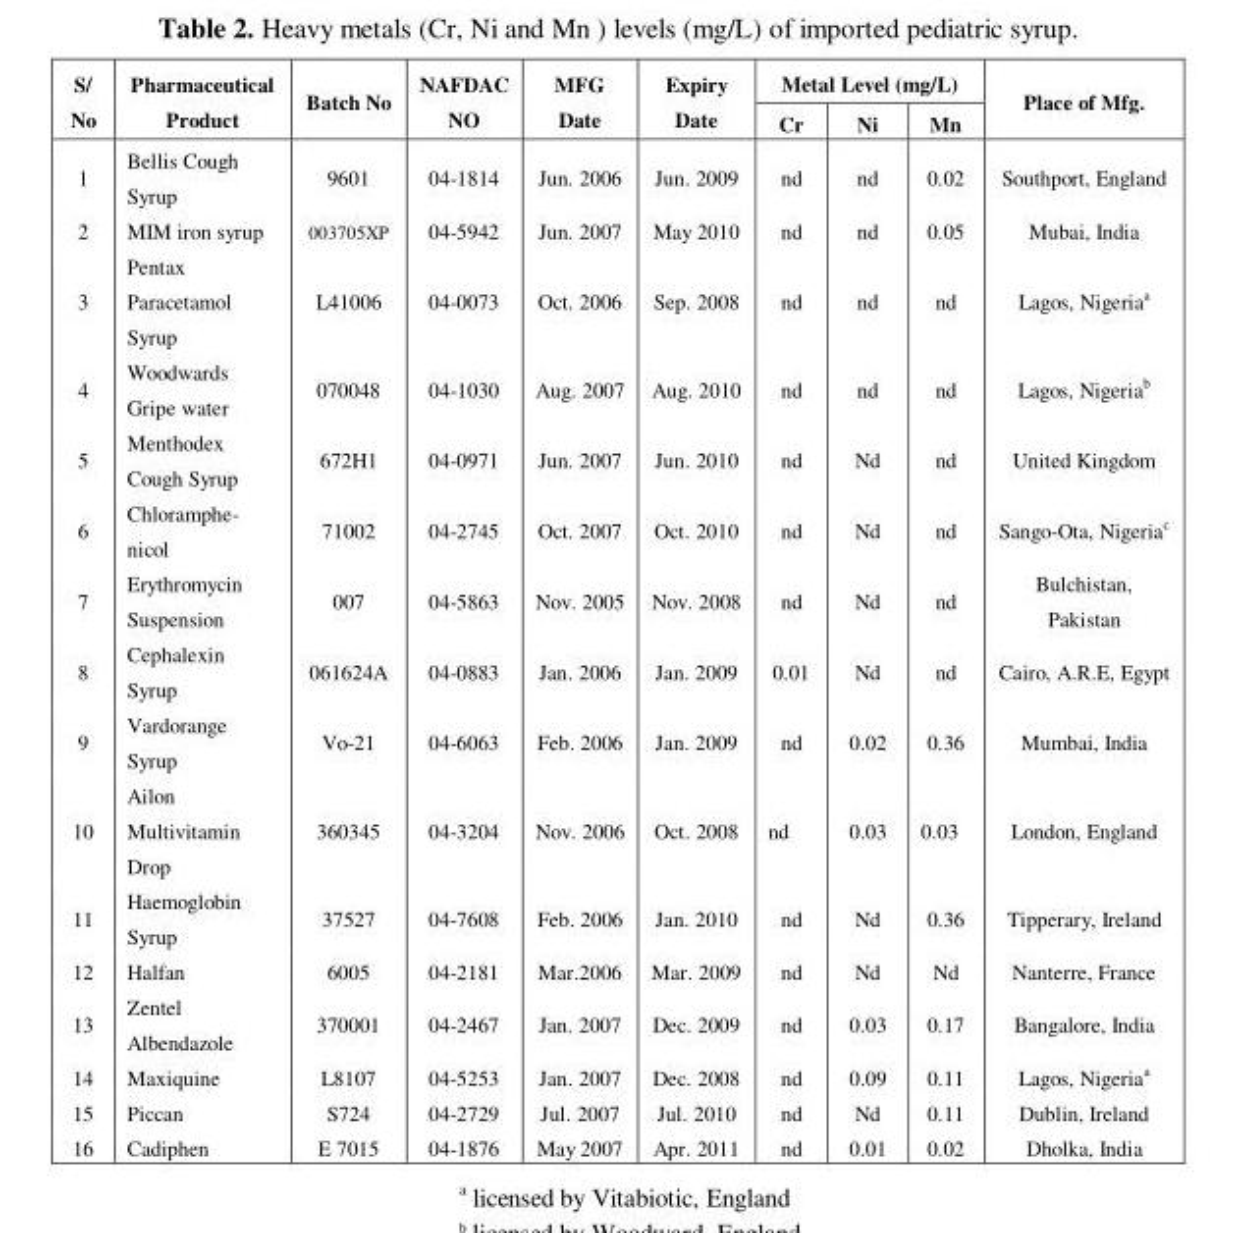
<table><thead><tr><td rowspan="2">S/ No</td><td rowspan="2">Pharmaceutical Product</td><td rowspan="2">Batch No</td><td rowspan="2">NAFDAC NO</td><td rowspan="2">MFG Date</td><td rowspan="2">Expiry Date</td><td colspan="3">Metal Level (mg/L)</td><td rowspan="2">Place of Mfg.</td></tr><tr><td>Cr</td><td>Ni</td><td>Mn</td></tr></thead><tbody><tr><td>1</td><td>Bellis Cough Syrup</td><td>9601</td><td>04-1814</td><td>Jun. 2006</td><td>Jun. 2009</td><td>nd</td><td>nd</td><td>0.02</td><td>Southport, England</td></tr><tr><td>2</td><td>MIM iron syrup</td><td>003705XP</td><td>04-5942</td><td>Jun. 2007</td><td>May 2010</td><td>nd</td><td>nd</td><td>0.05</td><td>Mubai, India</td></tr><tr><td>3</td><td>Pentax Paracetamol Syrup</td><td>L41006</td><td>04-0073</td><td>Oct. 2006</td><td>Sep. 2008</td><td>nd</td><td>nd</td><td>nd</td><td>Lagos, Nigeria<sup>a</sup></td></tr><tr><td>4</td><td>Woodwards Gripe water</td><td>070048</td><td>04-1030</td><td>Aug. 2007</td><td>Aug. 2010</td><td>nd</td><td>nd</td><td>nd</td><td>Lagos, Nigeria<sup>b</sup></td></tr><tr><td>5</td><td>Menthodex Cough Syrup</td><td>672H1</td><td>04-0971</td><td>Jun. 2007</td><td>Jun. 2010</td><td>nd</td><td>Nd</td><td>nd</td><td>United Kingdom</td></tr><tr><td>6</td><td>Chloramphe- nicol</td><td>71002</td><td>04-2745</td><td>Oct. 2007</td><td>Oct. 2010</td><td>nd</td><td>Nd</td><td>nd</td><td>Sango-Ota, Nigeria<sup>c</sup></td></tr><tr><td>7</td><td>Erythromycin Suspension</td><td>007</td><td>04-5863</td><td>Nov. 2005</td><td>Nov. 2008</td><td>nd</td><td>Nd</td><td>nd</td><td>Bulchistan, Pakistan</td></tr><tr><td>8</td><td>Cephalexin Syrup</td><td>061624A</td><td>04-0883</td><td>Jan. 2006</td><td>Jan. 2009</td><td>0.01</td><td>Nd</td><td>nd</td><td>Cairo, A.R.E, Egypt</td></tr><tr><td>9</td><td>Vardorange Syrup</td><td>Vo-21</td><td>04-6063</td><td>Feb. 2006</td><td>Jan. 2009</td><td>nd</td><td>0.02</td><td>0.36</td><td>Mumbai, India</td></tr><tr><td>10</td><td>Ailon Multivitamin Drop</td><td>360345</td><td>04-3204</td><td>Nov. 2006</td><td>Oct. 2008</td><td>nd</td><td>0.03</td><td>0.03</td><td>London, England</td></tr><tr><td>11</td><td>Haemoglobin Syrup</td><td>37527</td><td>04-7608</td><td>Feb. 2006</td><td>Jan. 2010</td><td>nd</td><td>Nd</td><td>0.36</td><td>Tipperary, Ireland</td></tr><tr><td>12</td><td>Halfan</td><td>6005</td><td>04-2181</td><td>Mar.2006</td><td>Mar. 2009</td><td>nd</td><td>Nd</td><td>Nd</td><td>Nanterre, France</td></tr><tr><td>13</td><td>Zentel Albendazole</td><td>370001</td><td>04-2467</td><td>Jan. 2007</td><td>Dec. 2009</td><td>nd</td><td>0.03</td><td>0.17</td><td>Bangalore, India</td></tr><tr><td>14</td><td>Maxiquine</td><td>L8107</td><td>04-5253</td><td>Jan. 2007</td><td>Dec. 2008</td><td>nd</td><td>0.09</td><td>0.11</td><td>Lagos, Nigeria<sup>a</sup></td></tr><tr><td>15</td><td>Piccan</td><td>S724</td><td>04-2729</td><td>Jul. 2007</td><td>Jul. 2010</td><td>nd</td><td>Nd</td><td>0.11</td><td>Dublin, Ireland</td></tr><tr><td>16</td><td>Cadiphen</td><td>E 7015</td><td>04-1876</td><td>May 2007</td><td>Apr. 2011</td><td>nd</td><td>0.01</td><td>0.02</td><td>Dholka, India</td></tr></tbody></table>